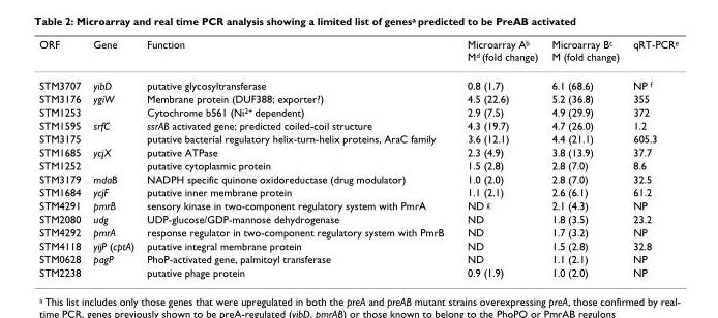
<table><thead><tr><td>ORF</td><td>Gene</td><td>Function</td><td>Microarray A<sup>b</sup> M<sup>d</sup> (fold change)</td><td>Microarray B<sup>c</sup> M (fold change)</td><td>qRT-PCR<sup>e</sup></td></tr></thead><tbody><tr><td>STM3707</td><td>yibD</td><td>putative glycosyltransferase</td><td>0.8 (1.7)</td><td>6.1 (68.6)</td><td>NP <sup>f</sup></td></tr><tr><td>STM3176</td><td>ygiW</td><td>Membrane protein (DUF388; exporter?)</td><td>4.5 (22.6)</td><td>5.2 (36.8)</td><td>355</td></tr><tr><td>STM1253</td><td></td><td>Cytochrome b561 (Ni<sup>2+</sup> dependent)</td><td>2.9 (7.5)</td><td>4.9 (29.9)</td><td>372</td></tr><tr><td>STM1595</td><td>srfC</td><td>ssrAB activated gene; predicted coiled-coil structure</td><td>4.3 (19.7)</td><td>4.7 (26.0)</td><td>1.2</td></tr><tr><td>STM3175</td><td></td><td>putative bacterial regulatory helix-turn-helix proteins, AraC family</td><td>3.6 (12.1)</td><td>4.4 (21.1)</td><td>605.3</td></tr><tr><td>STM1685</td><td>ycjX</td><td>putative ATPase</td><td>2.3 (4.9)</td><td>3.8 (13.9)</td><td>37.7</td></tr><tr><td>STM1252</td><td></td><td>putative cytoplasmic protein</td><td>1.5 (2.8)</td><td>2.8 (7.0)</td><td>8.6</td></tr><tr><td>STM3179</td><td>mdaB</td><td>NADPH specific quinone oxidoreductase (drug modulator)</td><td>1.0 (2.0)</td><td>2.8 (7.0)</td><td>32.5</td></tr><tr><td>STM1684</td><td>ycjF</td><td>putative inner membrane protein</td><td>1.1 (2.1)</td><td>2.6 (6.1)</td><td>61.2</td></tr><tr><td>STM4291</td><td>pmrB</td><td>sensory kinase in two-component regulatory system with PmrA</td><td>ND <sup>g</sup></td><td>2.1 (4.3)</td><td>NP</td></tr><tr><td>STM2080</td><td>udg</td><td>UDP-glucose/GDP-mannose dehydrogenase</td><td>ND</td><td>1.8 (3.5)</td><td>23.2</td></tr><tr><td>STM4292</td><td>pmrA</td><td>response regulator in two-component regulatory system with PmrB</td><td>ND</td><td>1.7 (3.2)</td><td>NP</td></tr><tr><td>STM4118</td><td>yijP (cptA)</td><td>putative integral membrane protein</td><td>ND</td><td>1.5 (2.8)</td><td>32.8</td></tr><tr><td>STM0628</td><td>pagP</td><td>PhoP-activated gene, palmitoyl transferase</td><td>ND</td><td>1.1 (2.1)</td><td>NP</td></tr><tr><td>STM2238</td><td></td><td>putative phage protein</td><td>0.9 (1.9)</td><td>1.0 (2.0)</td><td>NP</td></tr></tbody></table>